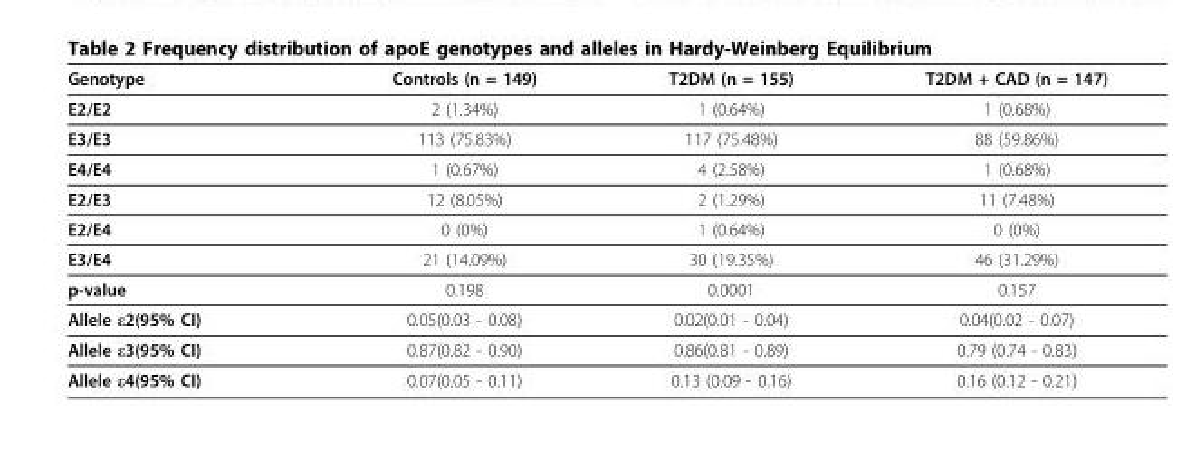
<table><thead><tr><td>Genotype</td><td>Controls (n = 149)</td><td>T2DM (n = 155)</td><td>T2DM + CAD (n = 147)</td></tr></thead><tbody><tr><td>E2/E2</td><td>2 (1.34%)</td><td>1 (0.64%)</td><td>1 (0.68%)</td></tr><tr><td>E3/E3</td><td>113 (75.83%)</td><td>117 (75.48%)</td><td>88 (59.86%)</td></tr><tr><td>E4/E4</td><td>1 (0.67%)</td><td>4 (2.58%)</td><td>1 (0.68%)</td></tr><tr><td>E2/E3</td><td>12 (8.05%)</td><td>2 (1.29%)</td><td>11 (7.48%)</td></tr><tr><td>E2/E4</td><td>0 (0%)</td><td>1 (0.64%)</td><td>0 (0%)</td></tr><tr><td>E3/E4</td><td>21 (14.09%)</td><td>30 (19.35%)</td><td>46 (31.29%)</td></tr><tr><td>p-value</td><td>0.198</td><td>0.0001</td><td>0.157</td></tr><tr><td>Allele ε2(95% CI)</td><td>0.05(0.03 - 0.08)</td><td>0.02(0.01 - 0.04)</td><td>0.04(0.02 - 0.07)</td></tr><tr><td>Allele ε3(95% CI)</td><td>0.87(0.82 - 0.90)</td><td>0.86(0.81 - 0.89)</td><td>0.79 (0.74 - 0.83)</td></tr><tr><td>Allele ε4(95% CI)</td><td>0.07(0.05 - 0.11)</td><td>0.13 (0.09 - 0.16)</td><td>0.16 (0.12 - 0.21)</td></tr></tbody></table>